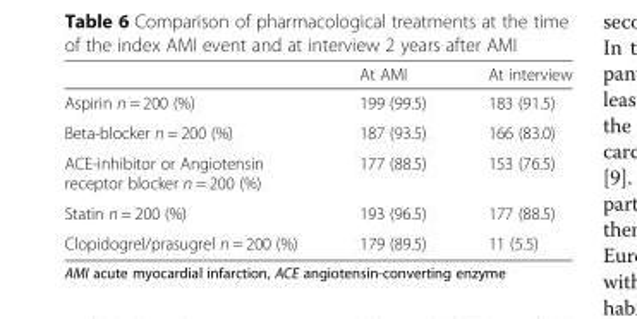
<table><thead><tr><td></td><td>At AMI</td><td>At interview</td></tr></thead><tbody><tr><td>Aspirin n = 200 (%)</td><td>199 (99.5)</td><td>183 (91.5)</td></tr><tr><td>Beta-blocker n = 200 (%)</td><td>187 (93.5)</td><td>166 (83.0)</td></tr><tr><td>ACE-inhibitor or Angiotensin receptor blocker n = 200 (%)</td><td>177 (88.5)</td><td>153 (76.5)</td></tr><tr><td>Statin n = 200 (%)</td><td>193 (96.5)</td><td>177 (88.5)</td></tr><tr><td>Clopidogrel/prasugrel n = 200 (%)</td><td>179 (89.5)</td><td>11 (5.5)</td></tr></tbody></table>